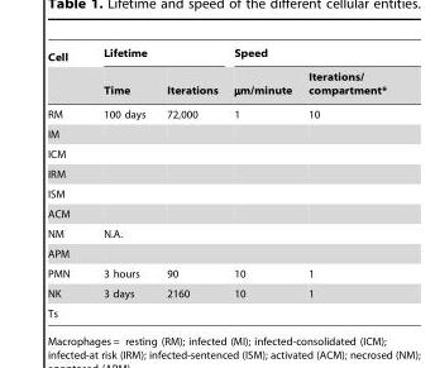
<table><thead><tr><td rowspan="2">Cell</td><td colspan="2">Lifetime</td><td colspan="2">Speed</td></tr><tr><td>Time</td><td>Iterations</td><td>µm/minute</td><td>Iterations/ compartment*</td></tr></thead><tbody><tr><td>RM</td><td>100 days</td><td>72,000</td><td>1</td><td>10</td></tr><tr><td colspan="5">IM</td></tr><tr><td colspan="5">ICM</td></tr><tr><td colspan="5">IRM</td></tr><tr><td colspan="5">ISM</td></tr><tr><td colspan="5">ACM</td></tr><tr><td>NM</td><td colspan="4">N.A.</td></tr><tr><td colspan="5">APM</td></tr><tr><td>PMN</td><td>3 hours</td><td>90</td><td>10</td><td>1</td></tr><tr><td>NK</td><td>3 days</td><td>2160</td><td>10</td><td>1</td></tr><tr><td>Ts</td><td></td><td></td><td></td><td></td></tr></tbody></table>